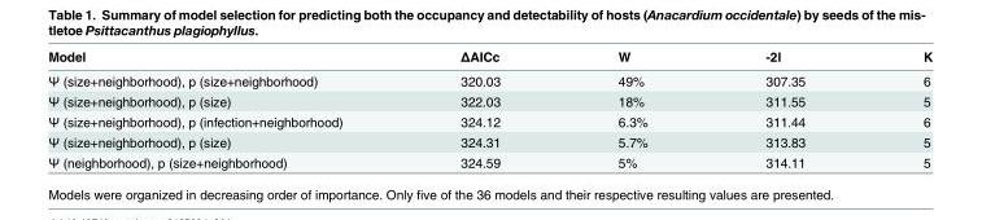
<table><thead><tr><td>Model</td><td>ΔAICc</td><td>W</td><td>-2l</td><td>K</td></tr></thead><tbody><tr><td>Ψ (size+neighborhood), p (size+neighborhood)</td><td>320.03</td><td>49%</td><td>307.35</td><td>6</td></tr><tr><td>Ψ (size+neighborhood), p (size)</td><td>322.03</td><td>18%</td><td>311.55</td><td>5</td></tr><tr><td>Ψ (size+neighborhood), p (infection+neighborhood)</td><td>324.12</td><td>6.3%</td><td>311.44</td><td>6</td></tr><tr><td>Ψ (size+neighborhood), p (size)</td><td>324.31</td><td>5.7%</td><td>313.83</td><td>5</td></tr><tr><td>Ψ (neighborhood), p (size+neighborhood)</td><td>324.59</td><td>5%</td><td>314.11</td><td>5</td></tr></tbody></table>